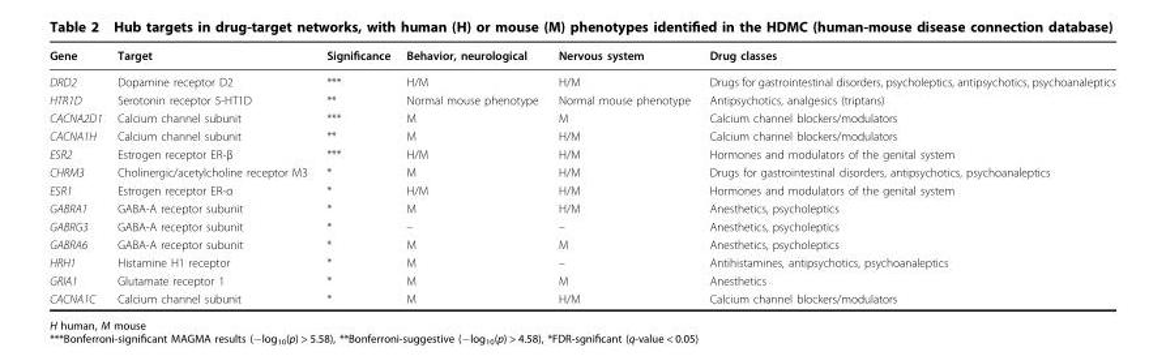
<table><thead><tr><td>Gene</td><td>Target</td><td>Significance</td><td>Behavior, neurological</td><td>Nervous system</td><td>Drug classes</td></tr></thead><tbody><tr><td>DRD2</td><td>Dopamine receptor D2</td><td>***</td><td>H/M</td><td>H/M</td><td>Drugs for gastrointestinal disorders, psycholeptics, antipsychotics, psychoanaleptics</td></tr><tr><td>HTR1D</td><td>Serotonin receptor 5-HT1D</td><td>**</td><td>Normal mouse phenotype</td><td>Normal mouse phenotype</td><td>Antipsychotics, analgesics (triptans)</td></tr><tr><td>CACNA2D1</td><td>Calcium channel subunit</td><td>***</td><td>M</td><td>M</td><td>Calcium channel blockers/modulators</td></tr><tr><td>CACNA1H</td><td>Calcium channel subunit</td><td>**</td><td>M</td><td>H/M</td><td>Calcium channel blockers/modulators</td></tr><tr><td>ESR2</td><td>Estrogen receptor ER-β</td><td>***</td><td>H/M</td><td>H/M</td><td>Hormones and modulators of the genital system</td></tr><tr><td>CHRM3</td><td>Cholinergic/acetylcholine receptor M3</td><td>*</td><td>M</td><td>H/M</td><td>Drugs for gastrointestinal disorders, antipsychotics, psychoanaleptics</td></tr><tr><td>ESR1</td><td>Estrogen receptor ER-α</td><td>*</td><td>H/M</td><td>H/M</td><td>Hormones and modulators of the genital system</td></tr><tr><td>GABRA1</td><td>GABA-A receptor subunit</td><td>*</td><td>M</td><td>H/M</td><td>Anesthetics, psycholeptics</td></tr><tr><td>GABRG3</td><td>GABA-A receptor subunit</td><td>*</td><td>–</td><td>–</td><td>Anesthetics, psycholeptics</td></tr><tr><td>GABRA6</td><td>GABA-A receptor subunit</td><td>*</td><td>M</td><td>M</td><td>Anesthetics, psycholeptics</td></tr><tr><td>HRH1</td><td>Histamine H1 receptor</td><td>*</td><td>M</td><td>–</td><td>Antihistamines, antipsychotics, psychoanaleptics</td></tr><tr><td>GRIA1</td><td>Glutamate receptor 1</td><td>*</td><td>M</td><td>M</td><td>Anesthetics</td></tr><tr><td>CACNA1C</td><td>Calcium channel subunit</td><td>*</td><td>M</td><td>H/M</td><td>Calcium channel blockers/modulators</td></tr></tbody></table>